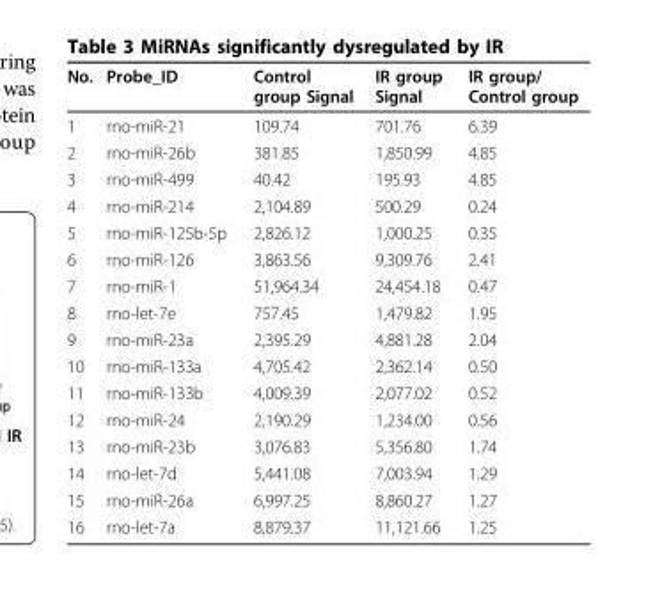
<table><thead><tr><td>No.</td><td>Probe_ID</td><td>Control group Signal</td><td>IR group Signal</td><td>IR group/ Control group</td></tr></thead><tbody><tr><td>1</td><td>rno-miR-21</td><td>109.74</td><td>701.76</td><td>6.39</td></tr><tr><td>2</td><td>rno-miR-26b</td><td>381.85</td><td>1,850.99</td><td>4.85</td></tr><tr><td>3</td><td>rno-miR-499</td><td>40.42</td><td>195.93</td><td>4.85</td></tr><tr><td>4</td><td>rno-miR-214</td><td>2,104.89</td><td>500.29</td><td>0.24</td></tr><tr><td>5</td><td>rno-miR-125b-5p</td><td>2,826.12</td><td>1,000.25</td><td>0.35</td></tr><tr><td>6</td><td>rno-miR-126</td><td>3,863.56</td><td>9,309.76</td><td>2.41</td></tr><tr><td>7</td><td>rno-miR-1</td><td>51,964.34</td><td>24,454.18</td><td>0.47</td></tr><tr><td>8</td><td>rno-let-7e</td><td>757.45</td><td>1,479.82</td><td>1.95</td></tr><tr><td>9</td><td>rno-miR-23a</td><td>2,395.29</td><td>4,881.28</td><td>2.04</td></tr><tr><td>10</td><td>rno-miR-133a</td><td>4,705.42</td><td>2,362.14</td><td>0.50</td></tr><tr><td>11</td><td>rno-miR-133b</td><td>4,009.39</td><td>2,077.02</td><td>0.52</td></tr><tr><td>12</td><td>rno-miR-24</td><td>2,190.29</td><td>1,234.00</td><td>0.56</td></tr><tr><td>13</td><td>rno-miR-23b</td><td>3,076.83</td><td>5,356.80</td><td>1.74</td></tr><tr><td>14</td><td>rno-let-7d</td><td>5,441.08</td><td>7,003.94</td><td>1.29</td></tr><tr><td>15</td><td>rno-miR-26a</td><td>6,997.25</td><td>8,860.27</td><td>1.27</td></tr><tr><td>16</td><td>rno-let-7a</td><td>8,879.37</td><td>11,121.66</td><td>1.25</td></tr></tbody></table>